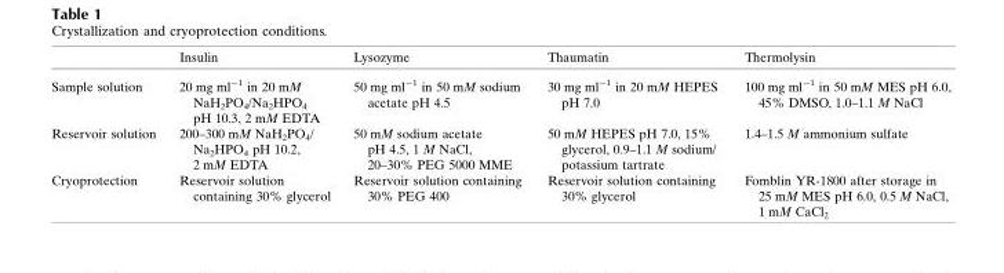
<table><thead><tr><td></td><td>Insulin</td><td>Lysozyme</td><td>Thaumatin</td><td>Thermolysin</td></tr></thead><tbody><tr><td>Sample solution</td><td>20 mg ml<sup>−1</sup> in 20 mM NaH<sub>2</sub>PO<sub>4</sub>/Na<sub>2</sub>HPO<sub>4</sub> pH 10.3, 2 mM EDTA</td><td>50 mg ml<sup>−1</sup> in 50 mM sodium acetate pH 4.5</td><td>30 mg ml<sup>−1</sup> in 20 mM HEPES pH 7.0</td><td>100 mg ml<sup>−1</sup> in 50 mM MES pH 6.0, 45% DMSO, 1.0–1.1 M NaCl</td></tr><tr><td>Reservoir solution</td><td>200–300 mM NaH<sub>2</sub>PO<sub>4</sub>/ Na<sub>2</sub>HPO<sub>4</sub> pH 10.2, 2 mM EDTA</td><td>50 mM sodium acetate pH 4.5, 1 M NaCl, 20–30% PEG 5000 MME</td><td>50 mM HEPES pH 7.0, 15% glycerol, 0.9–1.1 M sodium/ potassium tartrate</td><td>1.4–1.5 M ammonium sulfate</td></tr><tr><td>Cryoprotection</td><td>Reservoir solution containing 30% glycerol</td><td>Reservoir solution containing 30% PEG 400</td><td>Reservoir solution containing 30% glycerol</td><td>Fomblin YR-1800 after storage in 25 mM MES pH 6.0, 0.5 M NaCl, 1 mM CaCl<sub>2</sub></td></tr></tbody></table>